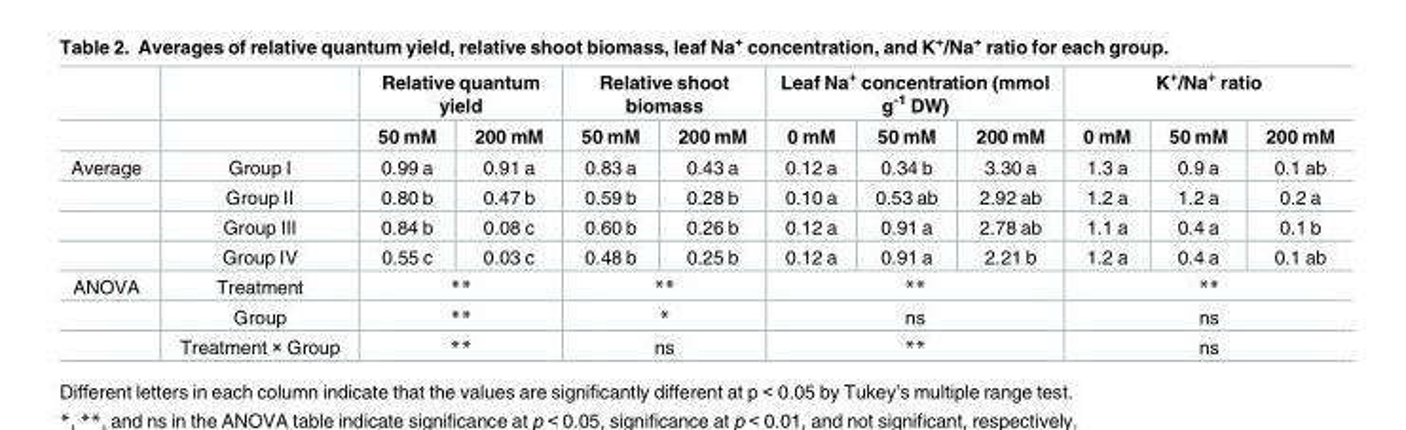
<table><thead><tr><td rowspan="2"></td><td rowspan="2"></td><td colspan="2">Relative quantum yield</td><td colspan="2">Relative shoot biomass</td><td colspan="3">Leaf Na<sup>+</sup> concentration (mmol g<sup>-1</sup> DW)</td><td colspan="3">K<sup>+</sup>/Na<sup>+</sup> ratio</td></tr><tr><td>50 mM</td><td>200 mM</td><td>50 mM</td><td>200 mM</td><td>0 mM</td><td>50 mM</td><td>200 mM</td><td>0 mM</td><td>50 mM</td><td>200 mM</td></tr></thead><tbody><tr><td rowspan="4">Average</td><td>Group I</td><td>0.99 a</td><td>0.91 a</td><td>0.83 a</td><td>0.43 a</td><td>0.12 a</td><td>0.34 b</td><td>3.30 a</td><td>1.3 a</td><td>0.9 a</td><td>0.1 ab</td></tr><tr><td>Group II</td><td>0.80 b</td><td>0.47 b</td><td>0.59 b</td><td>0.28 b</td><td>0.10 a</td><td>0.53 ab</td><td>2.92 ab</td><td>1.2 a</td><td>1.2 a</td><td>0.2 a</td></tr><tr><td>Group III</td><td>0.84 b</td><td>0.08 c</td><td>0.60 b</td><td>0.26 b</td><td>0.12 a</td><td>0.91 a</td><td>2.78 ab</td><td>1.1 a</td><td>0.4 a</td><td>0.1 b</td></tr><tr><td>Group IV</td><td>0.55 c</td><td>0.03 c</td><td>0.48 b</td><td>0.25 b</td><td>0.12 a</td><td>0.91 a</td><td>2.21 b</td><td>1.2 a</td><td>0.4 a</td><td>0.1 ab</td></tr><tr><td rowspan="3">ANOVA</td><td>Treatment</td><td colspan="2">**</td><td colspan="2">**</td><td colspan="3">**</td><td colspan="3">**</td></tr><tr><td>Group</td><td colspan="2">**</td><td colspan="2">*</td><td colspan="3">ns</td><td colspan="3">ns</td></tr><tr><td>Treatment × Group</td><td colspan="2">**</td><td colspan="2">ns</td><td colspan="3">**</td><td colspan="3">ns</td></tr></tbody></table>